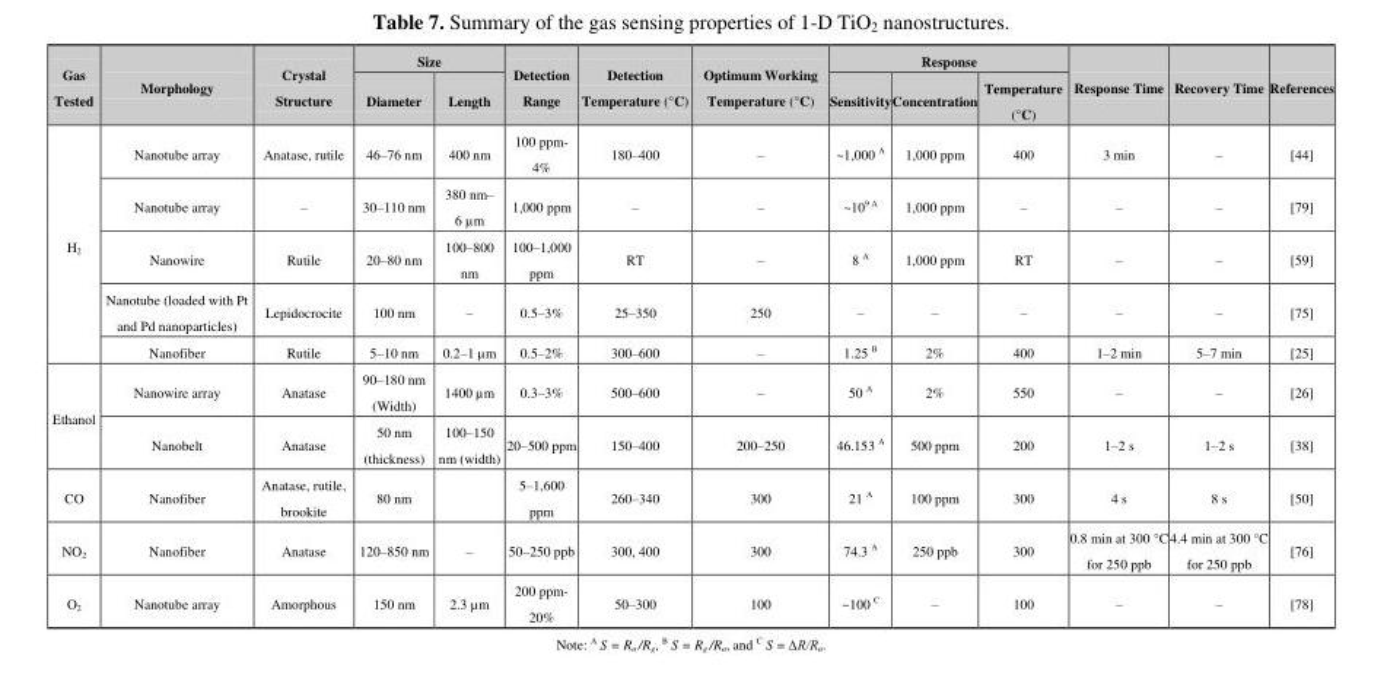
<table><thead><tr><td rowspan="2">Gas Tested</td><td rowspan="2">Morphology</td><td rowspan="2">Crystal Structure</td><td colspan="2">Size</td><td rowspan="2">Detection Range</td><td rowspan="2">Detection Temperature (°C)</td><td rowspan="2">Optimum Working Temperature (°C)</td><td colspan="3">Response</td><td rowspan="2">Response Time</td><td rowspan="2">Recovery Time</td><td rowspan="2">References</td></tr><tr><td>Diameter</td><td>Length</td><td>Sensitivity</td><td>Concentration</td><td>Temperature (°C)</td></tr></thead><tbody><tr><td rowspan="5">H<sub>2</sub></td><td>Nanotube array</td><td>Anatase, rutile</td><td>46–76 nm</td><td>400 nm</td><td>100 ppm- 4%</td><td>180–400</td><td>–</td><td>~1,000 A</td><td>1,000 ppm</td><td>400</td><td>3 min</td><td>–</td><td>[44]</td></tr><tr><td>Nanotube array</td><td>–</td><td>30–110 nm</td><td>380 nm– 6 µm</td><td>1,000 ppm</td><td>–</td><td>–</td><td>~109 A</td><td>1,000 ppm</td><td>–</td><td>–</td><td>–</td><td>[79]</td></tr><tr><td>Nanowire</td><td>Rutile</td><td>20–80 nm</td><td>100–800 nm</td><td>100–1,000 ppm</td><td>RT</td><td>–</td><td>8 <sup>A</sup></td><td>1,000 ppm</td><td>RT</td><td>–</td><td>–</td><td>[59]</td></tr><tr><td>Nanotube (loaded with Pt and Pd nanoparticles)</td><td>Lepidocrocite</td><td>100 nm</td><td>–</td><td>0.5–3%</td><td>25–350</td><td>250</td><td>–</td><td>–</td><td>–</td><td>–</td><td>–</td><td>[75]</td></tr><tr><td>Nanofiber</td><td>Rutile</td><td>5–10 nm</td><td>0.2–1 µm</td><td>0.5–2%</td><td>300–600</td><td>–</td><td>1.25 <sup>B</sup></td><td>2%</td><td>400</td><td>1–2 min</td><td>5–7 min</td><td>[25]</td></tr><tr><td rowspan="2">Ethanol</td><td>Nanowire array</td><td>Anatase</td><td>90–180 nm (Width)</td><td>1400 µm</td><td>0.3–3%</td><td>500–600</td><td>–</td><td>50 <sup>A</sup></td><td>2%</td><td>550</td><td>–</td><td>–</td><td>[26]</td></tr><tr><td>Nanobelt</td><td>Anatase</td><td>50 nm (thickness)</td><td>100–150 nm (width)</td><td>20–500 ppm</td><td>150–400</td><td>200–250</td><td>46.153 <sup>A</sup></td><td>500 ppm</td><td>200</td><td>1–2 s</td><td>1–2 s</td><td>[38]</td></tr><tr><td>CO</td><td>Nanofiber</td><td>Anatase, rutile, brookite</td><td>80 nm</td><td></td><td>5–1,600 ppm</td><td>260–340</td><td>300</td><td>21 <sup>A</sup></td><td>100 ppm</td><td>300</td><td>4 s</td><td>8 s</td><td>[50]</td></tr><tr><td>NO<sub>2</sub></td><td>Nanofiber</td><td>Anatase</td><td>120–850 nm</td><td>–</td><td>50–250 ppb</td><td>300, 400</td><td>300</td><td>74.3 <sup>A</sup></td><td>250 ppb</td><td>300</td><td>0.8 min at 300 °C for 250 ppb</td><td>4.4 min at 300 °C for 250 ppb</td><td>[76]</td></tr><tr><td>O<sub>2</sub></td><td>Nanotube array</td><td>Amorphous</td><td>150 nm</td><td>2.3 µm</td><td>200 ppm- 20%</td><td>50–300</td><td>100</td><td>~100 C</td><td>–</td><td>100</td><td>–</td><td>–</td><td>[78]</td></tr></tbody></table>